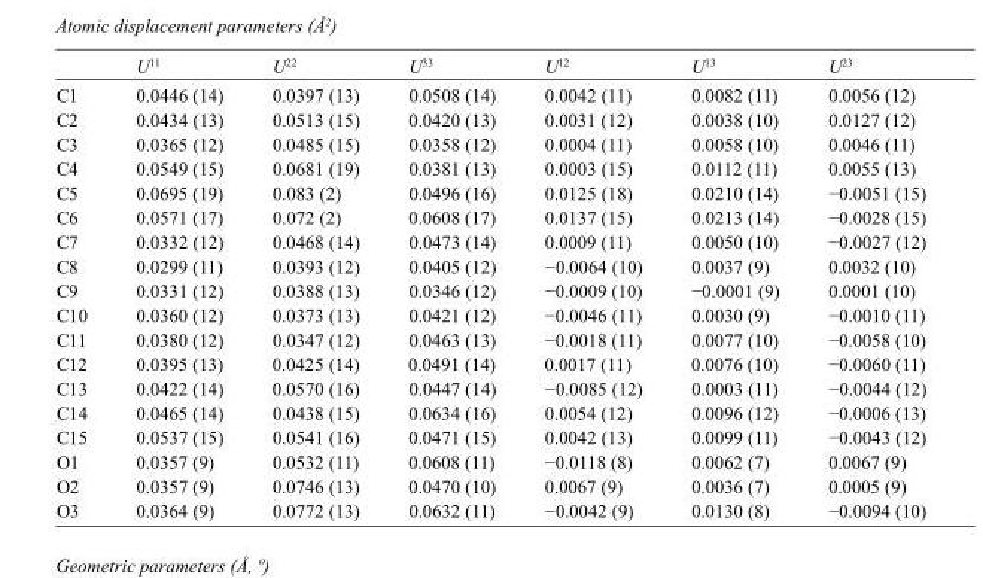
<table><thead><tr><td></td><td>U<sup>11</sup></td><td>U<sup>22</sup></td><td>U<sup>33</sup></td><td>U<sup>12</sup></td><td>U<sup>13</sup></td><td>U<sup>23</sup></td></tr></thead><tbody><tr><td>C1</td><td>0.0446 (14)</td><td>0.0397 (13)</td><td>0.0508 (14)</td><td>0.0042 (11)</td><td>0.0082 (11)</td><td>0.0056 (12)</td></tr><tr><td>C2</td><td>0.0434 (13)</td><td>0.0513 (15)</td><td>0.0420 (13)</td><td>0.0031 (12)</td><td>0.0038 (10)</td><td>0.0127 (12)</td></tr><tr><td>C3</td><td>0.0365 (12)</td><td>0.0485 (15)</td><td>0.0358 (12)</td><td>0.0004 (11)</td><td>0.0058 (10)</td><td>0.0046 (11)</td></tr><tr><td>C4</td><td>0.0549 (15)</td><td>0.0681 (19)</td><td>0.0381 (13)</td><td>0.0003 (15)</td><td>0.0112 (11)</td><td>0.0055 (13)</td></tr><tr><td>C5</td><td>0.0695 (19)</td><td>0.083 (2)</td><td>0.0496 (16)</td><td>0.0125 (18)</td><td>0.0210 (14)</td><td>−0.0051 (15)</td></tr><tr><td>C6</td><td>0.0571 (17)</td><td>0.072 (2)</td><td>0.0608 (17)</td><td>0.0137 (15)</td><td>0.0213 (14)</td><td>−0.0028 (15)</td></tr><tr><td>C7</td><td>0.0332 (12)</td><td>0.0468 (14)</td><td>0.0473 (14)</td><td>0.0009 (11)</td><td>0.0050 (10)</td><td>−0.0027 (12)</td></tr><tr><td>C8</td><td>0.0299 (11)</td><td>0.0393 (12)</td><td>0.0405 (12)</td><td>−0.0064 (10)</td><td>0.0037 (9)</td><td>0.0032 (10)</td></tr><tr><td>C9</td><td>0.0331 (12)</td><td>0.0388 (13)</td><td>0.0346 (12)</td><td>−0.0009 (10)</td><td>−0.0001 (9)</td><td>0.0001 (10)</td></tr><tr><td>C10</td><td>0.0360 (12)</td><td>0.0373 (13)</td><td>0.0421 (12)</td><td>−0.0046 (11)</td><td>0.0030 (9)</td><td>−0.0010 (11)</td></tr><tr><td>C11</td><td>0.0380 (12)</td><td>0.0347 (12)</td><td>0.0463 (13)</td><td>−0.0018 (11)</td><td>0.0077 (10)</td><td>−0.0058 (10)</td></tr><tr><td>C12</td><td>0.0395 (13)</td><td>0.0425 (14)</td><td>0.0491 (14)</td><td>0.0017 (11)</td><td>0.0076 (10)</td><td>−0.0060 (11)</td></tr><tr><td>C13</td><td>0.0422 (14)</td><td>0.0570 (16)</td><td>0.0447 (14)</td><td>−0.0085 (12)</td><td>0.0003 (11)</td><td>−0.0044 (12)</td></tr><tr><td>C14</td><td>0.0465 (14)</td><td>0.0438 (15)</td><td>0.0634 (16)</td><td>0.0054 (12)</td><td>0.0096 (12)</td><td>−0.0006 (13)</td></tr><tr><td>C15</td><td>0.0537 (15)</td><td>0.0541 (16)</td><td>0.0471 (15)</td><td>0.0042 (13)</td><td>0.0099 (11)</td><td>−0.0043 (12)</td></tr><tr><td>O1</td><td>0.0357 (9)</td><td>0.0532 (11)</td><td>0.0608 (11)</td><td>−0.0118 (8)</td><td>0.0062 (7)</td><td>0.0067 (9)</td></tr><tr><td>O2</td><td>0.0357 (9)</td><td>0.0746 (13)</td><td>0.0470 (10)</td><td>0.0067 (9)</td><td>0.0036 (7)</td><td>0.0005 (9)</td></tr><tr><td>O3</td><td>0.0364 (9)</td><td>0.0772 (13)</td><td>0.0632 (11)</td><td>−0.0042 (9)</td><td>0.0130 (8)</td><td>−0.0094 (10)</td></tr></tbody></table>